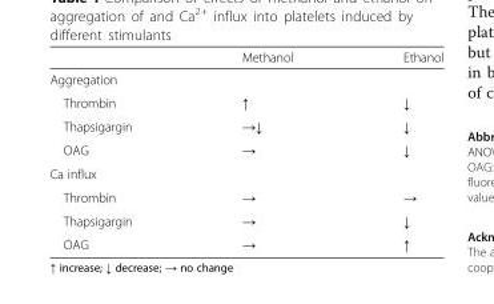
<table><thead><tr><td></td><td>Methanol</td><td>Ethanol</td></tr></thead><tbody><tr><td colspan="3">Aggregation</td></tr><tr><td>Thrombin</td><td>↑</td><td>↓</td></tr><tr><td>Thapsigargin</td><td>→↓</td><td>↓</td></tr><tr><td>OAG</td><td>→</td><td>↓</td></tr><tr><td colspan="3">Ca influx</td></tr><tr><td>Thrombin</td><td>→</td><td>→</td></tr><tr><td>Thapsigargin</td><td>→</td><td>↓</td></tr><tr><td>OAG</td><td>→</td><td>↑</td></tr></tbody></table>